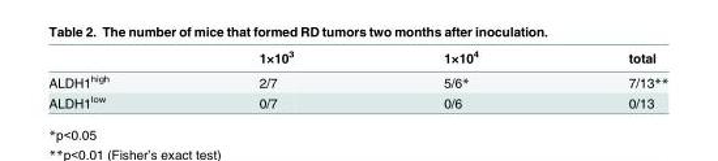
<table><thead><tr><td></td><td>1×10<sup>3</sup></td><td>1×10<sup>4</sup></td><td>total</td></tr></thead><tbody><tr><td>ALDH1<sup>high</sup></td><td>2/7</td><td>5/6*</td><td>7/13**</td></tr><tr><td>ALDH1<sup>low</sup></td><td>0/7</td><td>0/6</td><td>0/13</td></tr></tbody></table>